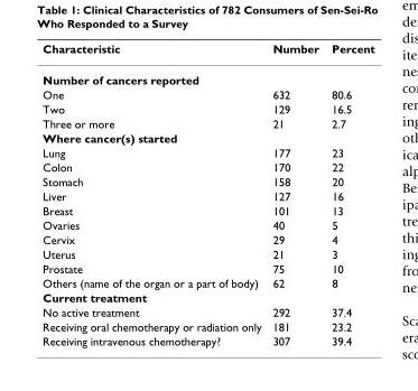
<table><thead><tr><td>Characteristic</td><td>Number</td><td>Percent</td></tr></thead><tbody><tr><td colspan="3">Number of cancers reported</td></tr><tr><td>One</td><td>632</td><td>80.6</td></tr><tr><td>Two</td><td>129</td><td>16.5</td></tr><tr><td>Three or more</td><td>21</td><td>2.7</td></tr><tr><td colspan="3">Where cancer(s) started</td></tr><tr><td>Lung</td><td>177</td><td>23</td></tr><tr><td>Colon</td><td>170</td><td>22</td></tr><tr><td>Stomach</td><td>158</td><td>20</td></tr><tr><td>Liver</td><td>127</td><td>16</td></tr><tr><td>Breast</td><td>101</td><td>13</td></tr><tr><td>Ovaries</td><td>40</td><td>5</td></tr><tr><td>Cervix</td><td>29</td><td>4</td></tr><tr><td>Uterus</td><td>21</td><td>3</td></tr><tr><td>Prostate</td><td>75</td><td>10</td></tr><tr><td>Others (name of the organ or a part of body)</td><td>62</td><td>8</td></tr><tr><td colspan="3">Current treatment</td></tr><tr><td>No active treatment</td><td>292</td><td>37.4</td></tr><tr><td>Receiving oral chemotherapy or radiation only</td><td>181</td><td>23.2</td></tr><tr><td>Receiving intravenous chemotherapy?</td><td>307</td><td>39.4</td></tr></tbody></table>